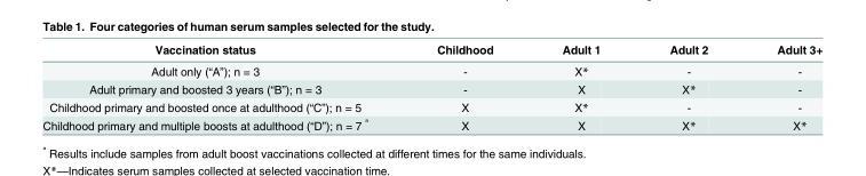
<table><thead><tr><td>Vaccination status</td><td>Childhood</td><td>Adult 1</td><td>Adult 2</td><td>Adult 3+</td></tr></thead><tbody><tr><td>Adult only (“A”); n = 3</td><td>-</td><td>X*</td><td>-</td><td>-</td></tr><tr><td>Adult primary and boosted 3 years (“B”); n = 3</td><td>-</td><td>X</td><td>X*</td><td>-</td></tr><tr><td>Childhood primary and boosted once at adulthood (“C”); n = 5</td><td>X</td><td>X*</td><td>-</td><td>-</td></tr><tr><td>Childhood primary and multiple boosts at adulthood (“D”); n = 7 <sup>ª</sup></td><td>X</td><td>X</td><td>X*</td><td>X*</td></tr></tbody></table>